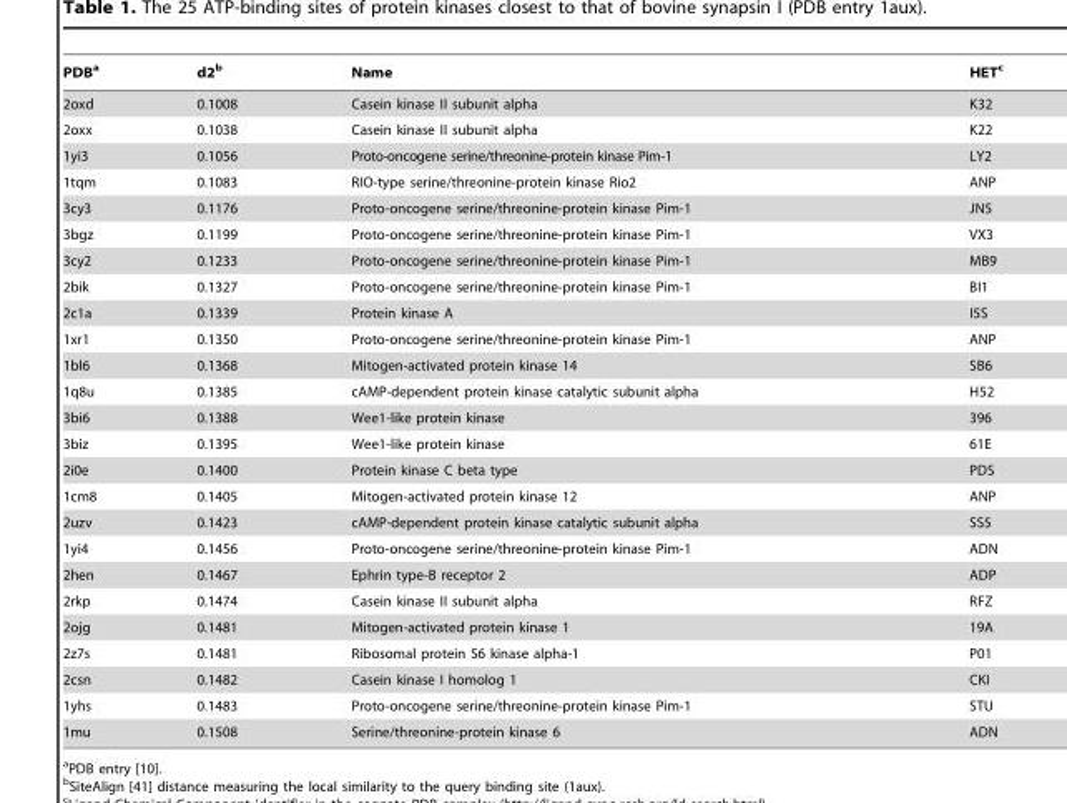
<table><thead><tr><td>PDB<sup>a</sup></td><td>d2<sup>b</sup></td><td>Name</td><td>HET<sup>c</sup></td></tr></thead><tbody><tr><td>2oxd</td><td>0.1008</td><td>Casein kinase II subunit alpha</td><td>K32</td></tr><tr><td>2oxx</td><td>0.1038</td><td>Casein kinase II subunit alpha</td><td>K22</td></tr><tr><td>1yi3</td><td>0.1056</td><td>Proto-oncogene serine/threonine-protein kinase Pim-1</td><td>LY2</td></tr><tr><td>1tqm</td><td>0.1083</td><td>RIO-type serine/threonine-protein kinase Rio2</td><td>ANP</td></tr><tr><td>3cy3</td><td>0.1176</td><td>Proto-oncogene serine/threonine-protein kinase Pim-1</td><td>JN5</td></tr><tr><td>3bgz</td><td>0.1199</td><td>Proto-oncogene serine/threonine-protein kinase Pim-1</td><td>VX3</td></tr><tr><td>3cy2</td><td>0.1233</td><td>Proto-oncogene serine/threonine-protein kinase Pim-1</td><td>MB9</td></tr><tr><td>2bik</td><td>0.1327</td><td>Proto-oncogene serine/threonine-protein kinase Pim-1</td><td>BI1</td></tr><tr><td>2c1a</td><td>0.1339</td><td>Protein kinase A</td><td>I5S</td></tr><tr><td>1xr1</td><td>0.1350</td><td>Proto-oncogene serine/threonine-protein kinase Pim-1</td><td>ANP</td></tr><tr><td>1bl6</td><td>0.1368</td><td>Mitogen-activated protein kinase 14</td><td>SB6</td></tr><tr><td>1q8u</td><td>0.1385</td><td>cAMP-dependent protein kinase catalytic subunit alpha</td><td>H52</td></tr><tr><td>3bi6</td><td>0.1388</td><td>Wee1-like protein kinase</td><td>396</td></tr><tr><td>3biz</td><td>0.1395</td><td>Wee1-like protein kinase</td><td>61E</td></tr><tr><td>2i0e</td><td>0.1400</td><td>Protein kinase C beta type</td><td>PDS</td></tr><tr><td>1cm8</td><td>0.1405</td><td>Mitogen-activated protein kinase 12</td><td>ANP</td></tr><tr><td>2uzv</td><td>0.1423</td><td>cAMP-dependent protein kinase catalytic subunit alpha</td><td>SS5</td></tr><tr><td>1yi4</td><td>0.1456</td><td>Proto-oncogene serine/threonine-protein kinase Pim-1</td><td>ADN</td></tr><tr><td>2hen</td><td>0.1467</td><td>Ephrin type-B receptor 2</td><td>ADP</td></tr><tr><td>2rkp</td><td>0.1474</td><td>Casein kinase II subunit alpha</td><td>RFZ</td></tr><tr><td>2ojg</td><td>0.1481</td><td>Mitogen-activated protein kinase 1</td><td>19A</td></tr><tr><td>2z7s</td><td>0.1481</td><td>Ribosomal protein S6 kinase alpha-1</td><td>P01</td></tr><tr><td>2csn</td><td>0.1482</td><td>Casein kinase I homolog 1</td><td>CKI</td></tr><tr><td>1yhs</td><td>0.1483</td><td>Proto-oncogene serine/threonine-protein kinase Pim-1</td><td>STU</td></tr><tr><td>1mu</td><td>0.1508</td><td>Serine/threonine-protein kinase 6</td><td>ADN</td></tr></tbody></table>